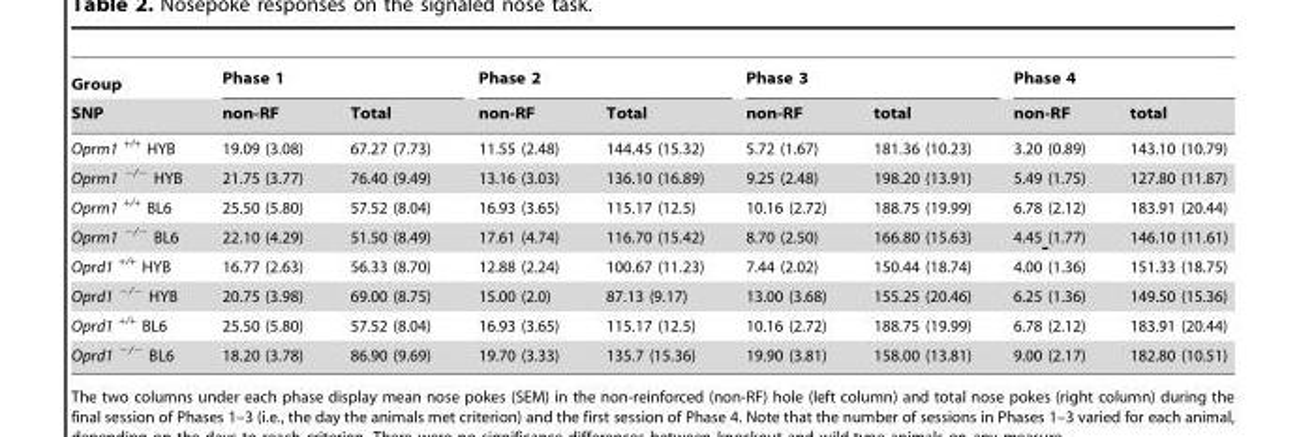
<table><thead><tr><td rowspan="2">Group SNP</td><td colspan="2">Phase 1</td><td colspan="2">Phase 2</td><td colspan="2">Phase 3</td><td colspan="2">Phase 4</td></tr><tr><td>non-RF</td><td>Total</td><td>non-RF</td><td>Total</td><td>non-RF</td><td>total</td><td>non-RF</td><td>total</td></tr></thead><tbody><tr><td>Oprm1 <sup>+/+</sup> HYB</td><td>19.09 (3.08)</td><td>67.27 (7.73)</td><td>11.55 (2.48)</td><td>144.45 (15.32)</td><td>5.72 (1.67)</td><td>181.36 (10.23)</td><td>3.20 (0.89)</td><td>143.10 (10.79)</td></tr><tr><td>Oprm1 <sup>−/−</sup> HYB</td><td>21.75 (3.77)</td><td>76.40 (9.49)</td><td>13.16 (3.03)</td><td>136.10 (16.89)</td><td>9.25 (2.48)</td><td>198.20 (13.91)</td><td>5.49 (1.75)</td><td>127.80 (11.87)</td></tr><tr><td>Oprm1 <sup>+/+</sup> BL6</td><td>25.50 (5.80)</td><td>57.52 (8.04)</td><td>16.93 (3.65)</td><td>115.17 (12.5)</td><td>10.16 (2.72)</td><td>188.75 (19.99)</td><td>6.78 (2.12)</td><td>183.91 (20.44)</td></tr><tr><td>Oprm1 <sup>−/−</sup> BL6</td><td>22.10 (4.29)</td><td>51.50 (8.49)</td><td>17.61 (4.74)</td><td>116.70 (15.42)</td><td>8.70 (2.50)</td><td>166.80 (15.63)</td><td>4.45 (1.77)</td><td>146.10 (11.61)</td></tr><tr><td>Oprd1 <sup>+/+</sup> HYB</td><td>16.77 (2.63)</td><td>56.33 (8.70)</td><td>12.88 (2.24)</td><td>100.67 (11.23)</td><td>7.44 (2.02)</td><td>150.44 (18.74)</td><td>4.00 (1.36)</td><td>151.33 (18.75)</td></tr><tr><td>Oprd1 <sup>−/−</sup> HYB</td><td>20.75 (3.98)</td><td>69.00 (8.75)</td><td>15.00 (2.0)</td><td>87.13 (9.17)</td><td>13.00 (3.68)</td><td>155.25 (20.46)</td><td>6.25 (1.36)</td><td>149.50 (15.36)</td></tr><tr><td>Oprd1 <sup>+/+</sup> BL6</td><td>25.50 (5.80)</td><td>57.52 (8.04)</td><td>16.93 (3.65)</td><td>115.17 (12.5)</td><td>10.16 (2.72)</td><td>188.75 (19.99)</td><td>6.78 (2.12)</td><td>183.91 (20.44)</td></tr><tr><td>Oprd1 <sup>−/−</sup> BL6</td><td>18.20 (3.78)</td><td>86.90 (9.69)</td><td>19.70 (3.33)</td><td>135.7 (15.36)</td><td>19.90 (3.81)</td><td>158.00 (13.81)</td><td>9.00 (2.17)</td><td>182.80 (10.51)</td></tr></tbody></table>